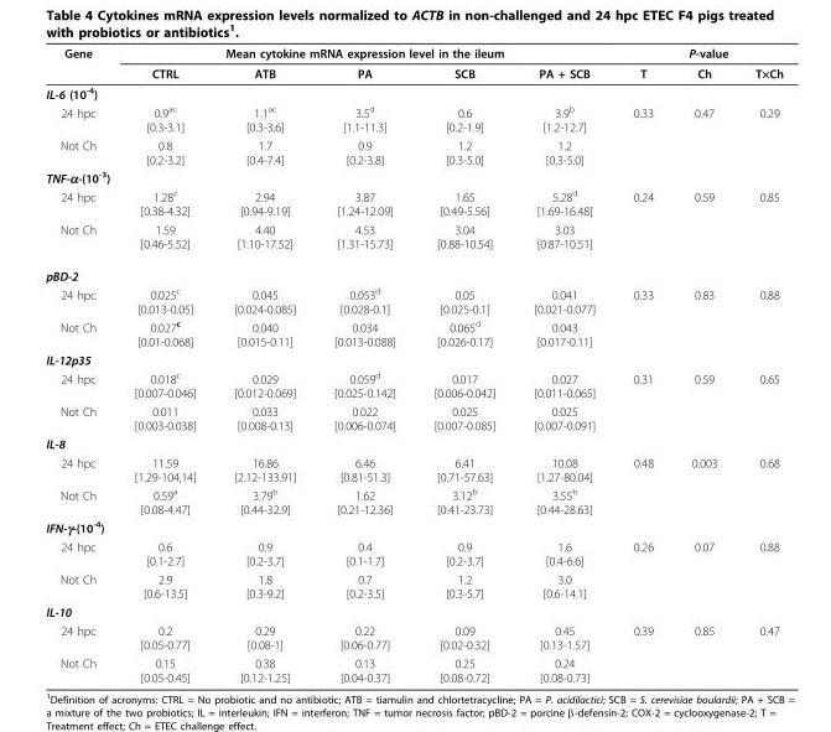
<table><thead><tr><td rowspan="2">Gene</td><td colspan="5">Mean cytokine mRNA expression level in the ileum</td><td colspan="3">P-value</td></tr><tr><td>CTRL</td><td>ATB</td><td>PA</td><td>SCB</td><td>PA + SCB</td><td>T</td><td>Ch</td><td>T×Ch</td></tr></thead><tbody><tr><td colspan="9">IL-6 (10<sup>-4</sup>)</td></tr><tr><td>24 hpc</td><td>0.9<sup>ac</sup> [0.3-3.1]</td><td>1.1<sup>ac</sup> [0.3-3.6]</td><td>3.5<sup>d</sup> [1.1-11.3]</td><td>0.6 [0.2-1.9]</td><td>3.9<sup>b</sup> [1.2-12.7]</td><td>0.33</td><td>0.47</td><td>0.29</td></tr><tr><td>Not Ch</td><td>0.8 [0.2-3.2]</td><td>1.7 [0.4-7.4]</td><td>0.9 [0.2-3.8]</td><td>1.2 [0.3-5.0]</td><td>1.2 [0.3-5.0]</td><td></td><td></td><td></td></tr><tr><td colspan="9">TNF-α-(10<sup>-3</sup>)</td></tr><tr><td>24 hpc</td><td>1.28<sup>c</sup> [0.38-4.32]</td><td>2.94 [0.94-9.19]</td><td>3.87 [1.24-12.09]</td><td>1.65 [0.49-5.56]</td><td>5.28<sup>d</sup> [1.69-16.48]</td><td>0.24</td><td>0.59</td><td>0.85</td></tr><tr><td>Not Ch</td><td>1.59 [0.46-5.52]</td><td>4.40 [1.10-17.52]</td><td>4.53 [1.31-15.73]</td><td>3.04 [0.88-10.54]</td><td>3.03 [0.87-10.51]</td><td></td><td></td><td></td></tr><tr><td colspan="9">pBD-2</td></tr><tr><td>24 hpc</td><td>0.025<sup>c</sup> [0.013-0.05]</td><td>0.045 [0.024-0.085]</td><td>0.053<sup>d</sup> [0.028-0.1]</td><td>0.05 [0.025-0.1]</td><td>0.041 [0.021-0.077]</td><td>0.33</td><td>0.83</td><td>0.88</td></tr><tr><td>Not Ch</td><td>0.027<sup>c</sup> [0.01-0.068]</td><td>0.040 [0.015-0.11]</td><td>0.034 [0.013-0.088]</td><td>0.065<sup>d</sup> [0.026-0.17]</td><td>0.043 [0.017-0.11]</td><td></td><td></td><td></td></tr><tr><td colspan="9">IL-12p35</td></tr><tr><td>24 hpc</td><td>0.018<sup>c</sup> [0.007-0.046]</td><td>0.029 [0.012-0.069]</td><td>0.059<sup>d</sup> [0.025-0.142]</td><td>0.017 [0.006-0.042]</td><td>0.027 [0.011-0.065]</td><td>0.31</td><td>0.59</td><td>0.65</td></tr><tr><td>Not Ch</td><td>0.011 [0.003-0.038]</td><td>0.033 [0.008-0.13]</td><td>0.022 [0.006-0.074]</td><td>0.025 [0.007-0.085]</td><td>0.025 [0.007-0.091]</td><td></td><td></td><td></td></tr><tr><td colspan="9">IL-8</td></tr><tr><td>24 hpc</td><td>11.59 [1.29-104,14]</td><td>16.86 [2.12-133.91]</td><td>6.46 [0.81-51.3]</td><td>6.41 [0.71-57.63]</td><td>10.08 [1.27-80.04]</td><td>0.48</td><td>0.003</td><td>0.68</td></tr><tr><td>Not Ch</td><td>0.59<sup>a</sup> [0.08-4.47]</td><td>3.79<sup>b</sup> [0.44-32.9]</td><td>1.62 [0.21-12.36]</td><td>3.12<sup>b</sup> [0.41-23.73]</td><td>3.55<sup>b</sup> [0.44-28.63]</td><td></td><td></td><td></td></tr><tr><td colspan="9">IFN-γ-(10<sup>-4</sup>)</td></tr><tr><td>24 hpc</td><td>0.6 [0.1-2.7]</td><td>0.9 [0.2-3.7]</td><td>0.4 [0.1-1.7]</td><td>0.9 [0.2-3.7]</td><td>1.6 [0.4-6.6]</td><td>0.26</td><td>0.07</td><td>0.88</td></tr><tr><td>Not Ch</td><td>2.9 [0.6-13.5]</td><td>1.8 [0.3-9.2]</td><td>0.7 [0.2-3.5]</td><td>1.2 [0.3-5.7]</td><td>3.0 [0.6-14.1]</td><td></td><td></td><td></td></tr><tr><td colspan="9">IL-10</td></tr><tr><td>24 hpc</td><td>0.2 [0.05-0.77]</td><td>0.29 [0.08-1]</td><td>0.22 [0.06-0.77]</td><td>0.09 [0.02-0.32]</td><td>0.45 [0.13-1.57]</td><td>0.39</td><td>0.85</td><td>0.47</td></tr><tr><td>Not Ch</td><td>0.15 [0.05-0.45]</td><td>0.38 [0.12-1.25]</td><td>0.13 [0.04-0.37]</td><td>0.25 [0.08-0.72]</td><td>0.24 [0.08-0.73]</td><td></td><td></td><td></td></tr></tbody></table>